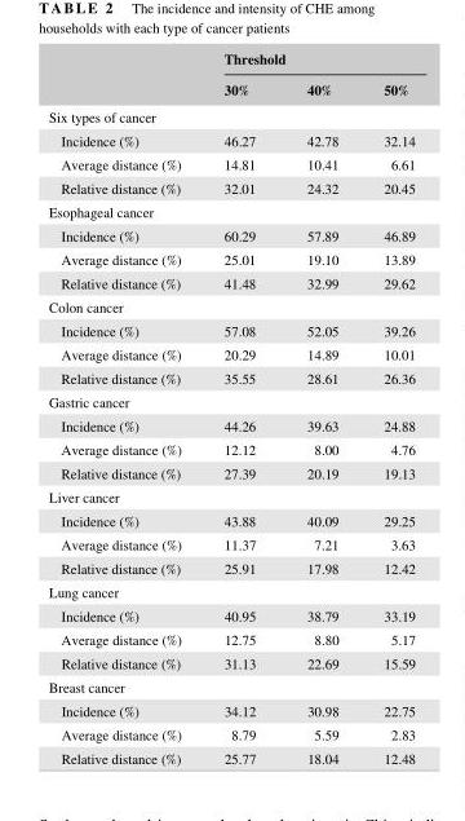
<table><thead><tr><td rowspan="2"></td><td colspan="3">Threshold</td></tr><tr><td>30%</td><td>40%</td><td>50%</td></tr></thead><tbody><tr><td colspan="4">Six types of cancer</td></tr><tr><td>Incidence (%)</td><td>46.27</td><td>42.78</td><td>32.14</td></tr><tr><td>Average distance (%)</td><td>14.81</td><td>10.41</td><td>6.61</td></tr><tr><td>Relative distance (%)</td><td>32.01</td><td>24.32</td><td>20.45</td></tr><tr><td colspan="4">Esophageal cancer</td></tr><tr><td>Incidence (%)</td><td>60.29</td><td>57.89</td><td>46.89</td></tr><tr><td>Average distance (%)</td><td>25.01</td><td>19.10</td><td>13.89</td></tr><tr><td>Relative distance (%)</td><td>41.48</td><td>32.99</td><td>29.62</td></tr><tr><td colspan="4">Colon cancer</td></tr><tr><td>Incidence (%)</td><td>57.08</td><td>52.05</td><td>39.26</td></tr><tr><td>Average distance (%)</td><td>20.29</td><td>14.89</td><td>10.01</td></tr><tr><td>Relative distance (%)</td><td>35.55</td><td>28.61</td><td>26.36</td></tr><tr><td colspan="4">Gastric cancer</td></tr><tr><td>Incidence (%)</td><td>44.26</td><td>39.63</td><td>24.88</td></tr><tr><td>Average distance (%)</td><td>12.12</td><td>8.00</td><td>4.76</td></tr><tr><td>Relative distance (%)</td><td>27.39</td><td>20.19</td><td>19.13</td></tr><tr><td colspan="4">Liver cancer</td></tr><tr><td>Incidence (%)</td><td>43.88</td><td>40.09</td><td>29.25</td></tr><tr><td>Average distance (%)</td><td>11.37</td><td>7.21</td><td>3.63</td></tr><tr><td>Relative distance (%)</td><td>25.91</td><td>17.98</td><td>12.42</td></tr><tr><td colspan="4">Lung cancer</td></tr><tr><td>Incidence (%)</td><td>40.95</td><td>38.79</td><td>33.19</td></tr><tr><td>Average distance (%)</td><td>12.75</td><td>8.80</td><td>5.17</td></tr><tr><td>Relative distance (%)</td><td>31.13</td><td>22.69</td><td>15.59</td></tr><tr><td colspan="4">Breast cancer</td></tr><tr><td>Incidence (%)</td><td>34.12</td><td>30.98</td><td>22.75</td></tr><tr><td>Average distance (%)</td><td>8.79</td><td>5.59</td><td>2.83</td></tr><tr><td>Relative distance (%)</td><td>25.77</td><td>18.04</td><td>12.48</td></tr></tbody></table>